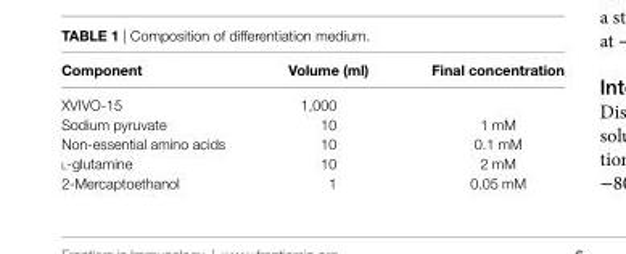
<table><thead><tr><td>component</td><td>Volume (ml)</td><td>Final concentration</td></tr></thead><tbody><tr><td>XVIVO-15</td><td>1,000</td><td></td></tr><tr><td>Sodium pyruvate</td><td>10</td><td>1 mM</td></tr><tr><td>Non-essential amino acids</td><td>10</td><td>0.1 mM</td></tr><tr><td>l-glutamine</td><td>10</td><td>2 mM</td></tr><tr><td>2-Mercaptoethanol</td><td>1</td><td>0.05 mM</td></tr></tbody></table>